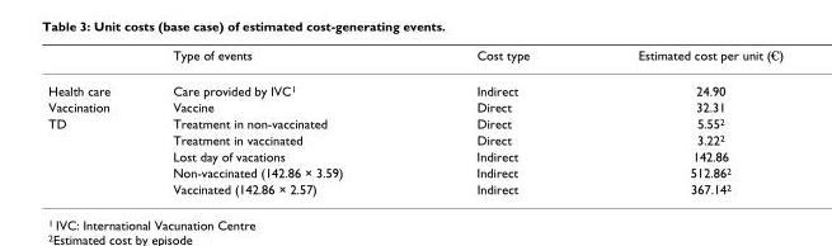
<table><thead><tr><td></td><td>Type of events</td><td>Cost type</td><td>Estimated cost per unit (€)</td></tr></thead><tbody><tr><td>Health care</td><td>Care provided by IVC<sup>1</sup></td><td>Indirect</td><td>24.90</td></tr><tr><td>Vaccination</td><td>Vaccine</td><td>Direct</td><td>32.31</td></tr><tr><td rowspan="5">TD</td><td>Treatment in non-vaccinated</td><td>Direct</td><td>5.55<sup>2</sup></td></tr><tr><td>Treatment in vaccinated</td><td>Direct</td><td>3.22<sup>2</sup></td></tr><tr><td>Lost day of vacations</td><td>Indirect</td><td>142.86</td></tr><tr><td>Non-vaccinated (142.86 × 3.59)</td><td>Indirect</td><td>512.86<sup>2</sup></td></tr><tr><td>Vaccinated (142.86 × 2.57)</td><td>Indirect</td><td>367.14<sup>2</sup></td></tr></tbody></table>